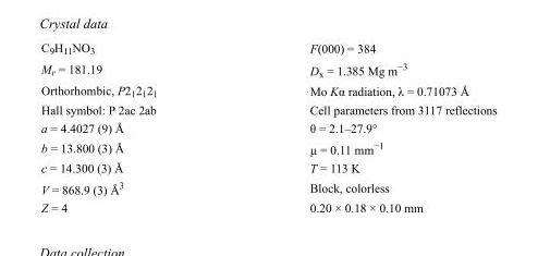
<table><tbody><tr><td>C<sub>9</sub>H<sub>11</sub>NO<sub>3</sub></td><td>F(000) = 384</td></tr><tr><td>M<sub>r</sub> = 181.19</td><td>D<sub>x</sub> = 1.385 Mg m<sup>−3</sup></td></tr><tr><td>Orthorhombic, P2<sub>1</sub>2<sub>1</sub>2<sub>1</sub></td><td>Mo Kα radiation, λ = 0.71073 Å</td></tr><tr><td>Hall symbol: P 2ac 2ab</td><td>Cell parameters from 3117 reflections</td></tr><tr><td>a = 4.4027 (9) Å</td><td>θ = 2.1–27.9°</td></tr><tr><td>b = 13.800 (3) Å</td><td>µ = 0.11 mm<sup>−1</sup></td></tr><tr><td>c = 14.300 (3) Å</td><td>T = 113 K</td></tr><tr><td>V = 868.9 (3) Å<sup>3</sup></td><td>Block, colorless</td></tr><tr><td>Z = 4</td><td>0.20 × 0.18 × 0.10 mm</td></tr></tbody></table>